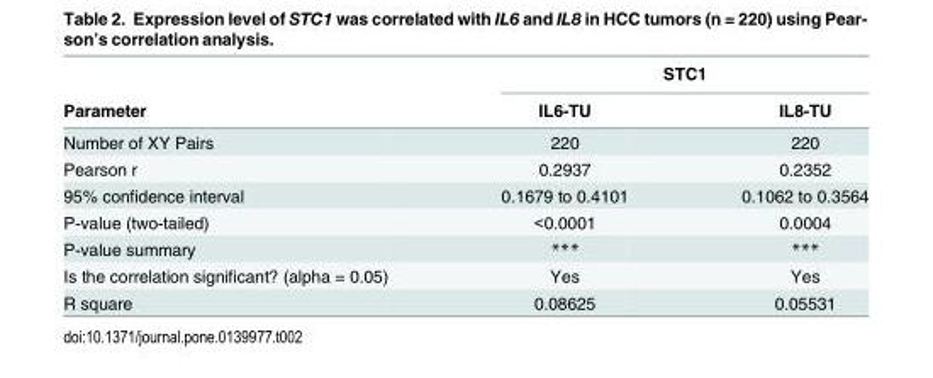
<table><thead><tr><td rowspan="2">Parameter</td><td colspan="2">STC1</td></tr><tr><td>IL6-TU</td><td>IL8-TU</td></tr></thead><tbody><tr><td>Number of XY Pairs</td><td>220</td><td>220</td></tr><tr><td>Pearson r</td><td>0.2937</td><td>0.2352</td></tr><tr><td>95% confidence interval</td><td>0.1679 to 0.4101</td><td>0.1062 to 0.3564</td></tr><tr><td>P-value (two-tailed)</td><td>&lt;0.0001</td><td>0.0004</td></tr><tr><td>P-value summary</td><td>***</td><td>***</td></tr><tr><td>Is the correlation significant? (alpha = 0.05)</td><td>Yes</td><td>Yes</td></tr><tr><td>R square</td><td>0.08625</td><td>0.05531</td></tr></tbody></table>